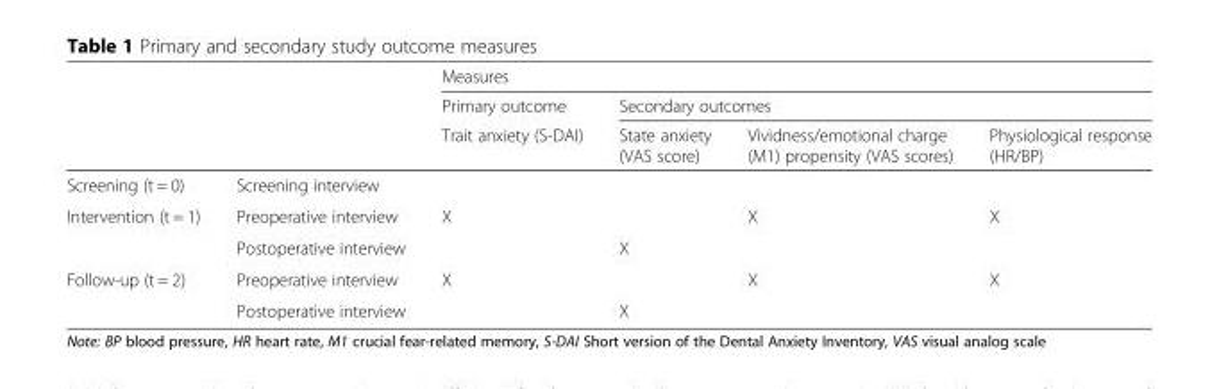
<table><thead><tr><td rowspan="3"></td><td rowspan="3"></td><td colspan="4">Measures</td></tr><tr><td rowspan="2">Primary outcome Trait anxiety (S-DAI)</td><td colspan="3">Secondary outcomes</td></tr><tr><td>State anxiety (VAS score)</td><td>Vividness/emotional charge (M1) propensity (VAS scores)</td><td>Physiological response (HR/BP)</td></tr></thead><tbody><tr><td>Screening (t = 0)</td><td>Screening interview</td><td></td><td></td><td></td><td></td></tr><tr><td rowspan="2">Intervention (t = 1)</td><td>Preoperative interview</td><td>X</td><td></td><td>X</td><td>X</td></tr><tr><td>Postoperative interview</td><td></td><td>X</td><td></td><td></td></tr><tr><td rowspan="2">Follow-up (t = 2)</td><td>Preoperative interview</td><td>X</td><td></td><td>X</td><td>X</td></tr><tr><td>Postoperative interview</td><td></td><td>X</td><td></td><td></td></tr></tbody></table>